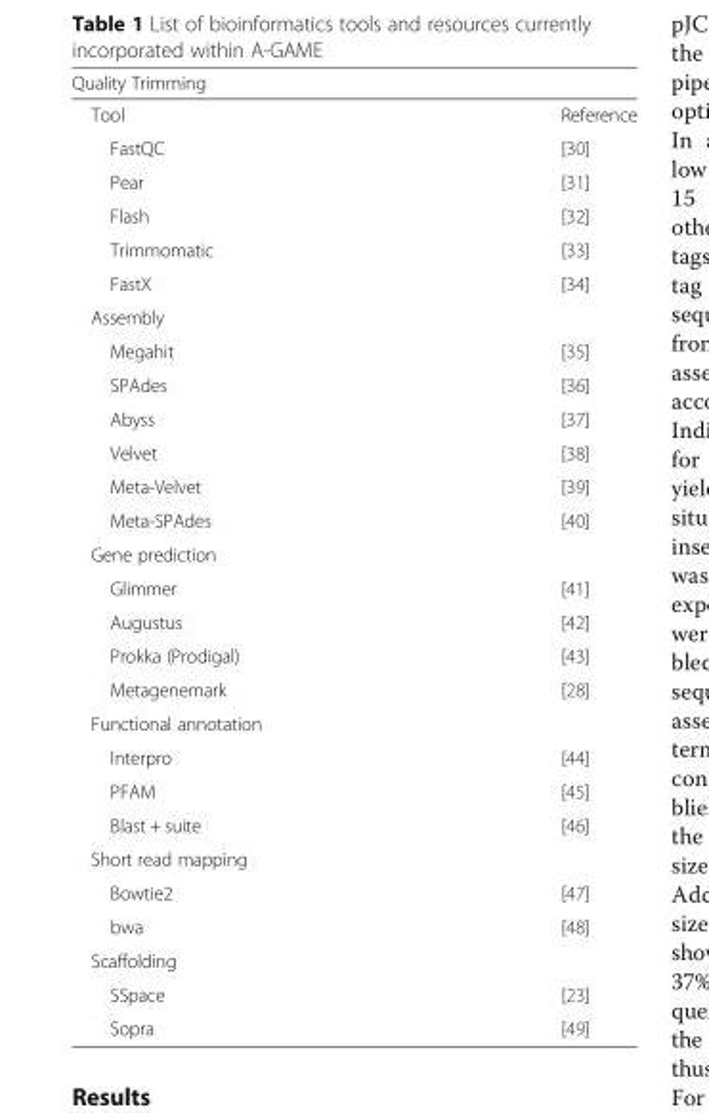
<table><thead><tr><td colspan="2">Quality Trimming</td></tr><tr><td>Tool</td><td>Reference</td></tr></thead><tbody><tr><td>FastQC</td><td>[30]</td></tr><tr><td>Pear</td><td>[31]</td></tr><tr><td>Flash</td><td>[32]</td></tr><tr><td>Trimmomatic</td><td>[33]</td></tr><tr><td>FastX</td><td>[34]</td></tr><tr><td colspan="2">Assembly</td></tr><tr><td>Megahit</td><td>[35]</td></tr><tr><td>SPAdes</td><td>[36]</td></tr><tr><td>Abyss</td><td>[37]</td></tr><tr><td>Velvet</td><td>[38]</td></tr><tr><td>Meta-Velvet</td><td>[39]</td></tr><tr><td>Meta-SPAdes</td><td>[40]</td></tr><tr><td colspan="2">Gene prediction</td></tr><tr><td>Glimmer</td><td>[41]</td></tr><tr><td>Augustus</td><td>[42]</td></tr><tr><td>Prokka (Prodigal)</td><td>[43]</td></tr><tr><td>Metagenemark</td><td>[28]</td></tr><tr><td colspan="2">Functional annotation</td></tr><tr><td>Interpro</td><td>[44]</td></tr><tr><td>PFAM</td><td>[45]</td></tr><tr><td>Blast + suite</td><td>[46]</td></tr><tr><td colspan="2">Short read mapping</td></tr><tr><td>Bowtie2</td><td>[47]</td></tr><tr><td>bwa</td><td>[48]</td></tr><tr><td colspan="2">Scaffolding</td></tr><tr><td>SSpace</td><td>[23]</td></tr><tr><td>Sopra</td><td>[49]</td></tr></tbody></table>